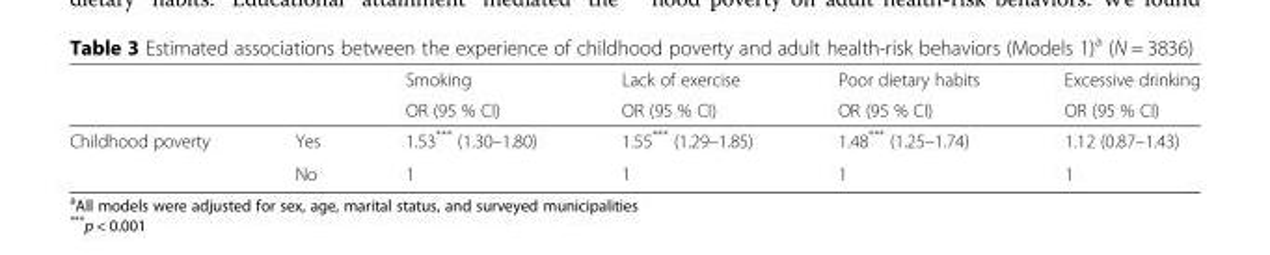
<table><thead><tr><td rowspan="2"></td><td rowspan="2"></td><td rowspan="2">Smoking OR (95 % CI)</td><td rowspan="2">Lack of exercise OR (95 % CI)</td><td rowspan="2">Poor dietary habits OR (95 % CI)</td><td rowspan="2">Excessive drinking OR (95 % CI)</td></tr><tr></tr></thead><tbody><tr><td rowspan="2">Childhood poverty</td><td>Yes</td><td>1.53*** (1.30–1.80)</td><td>1.55*** (1.29–1.85)</td><td>1.48*** (1.25–1.74)</td><td>1.12 (0.87–1.43)</td></tr><tr><td>No</td><td>1</td><td>1</td><td>1</td><td>1</td></tr></tbody></table>